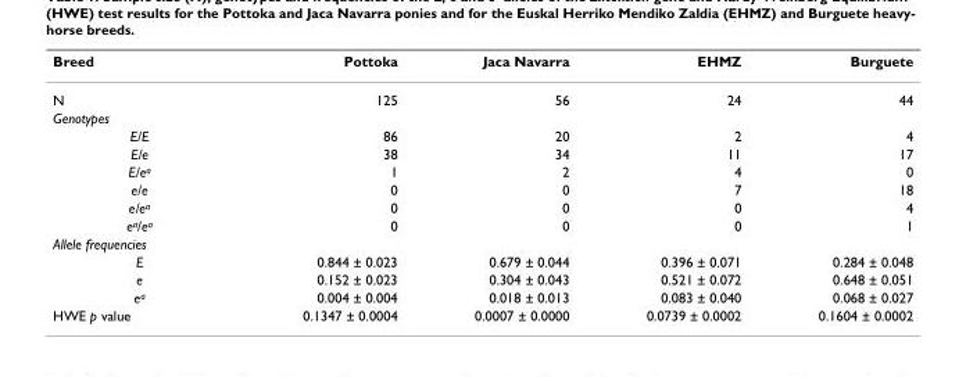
<table><thead><tr><td>Breed</td><td>Pottoka</td><td>Jaca Navarra</td><td>EHMZ</td><td>Burguete</td></tr></thead><tbody><tr><td>N</td><td>125</td><td>56</td><td>24</td><td>44</td></tr><tr><td colspan="5">Genotypes</td></tr><tr><td>E/E</td><td>86</td><td>20</td><td>2</td><td>4</td></tr><tr><td>E/e</td><td>38</td><td>34</td><td>11</td><td>17</td></tr><tr><td>E/e<sup>a</sup></td><td>1</td><td>2</td><td>4</td><td>0</td></tr><tr><td>e/e</td><td>0</td><td>0</td><td>7</td><td>18</td></tr><tr><td>e/e<sup>a</sup></td><td>0</td><td>0</td><td>0</td><td>4</td></tr><tr><td>e<sup>a</sup>/e<sup>a</sup></td><td>0</td><td>0</td><td>0</td><td>1</td></tr><tr><td colspan="5">Allele frequencies</td></tr><tr><td>E</td><td>0.844 ± 0.023</td><td>0.679 ± 0.044</td><td>0.396 ± 0.071</td><td>0.284 ± 0.048</td></tr><tr><td>e</td><td>0.152 ± 0.023</td><td>0.304 ± 0.043</td><td>0.521 ± 0.072</td><td>0.648 ± 0.051</td></tr><tr><td>e<sup>a</sup></td><td>0.004 ± 0.004</td><td>0.018 ± 0.013</td><td>0.083 ± 0.040</td><td>0.068 ± 0.027</td></tr><tr><td>HWE p value</td><td>0.1347 ± 0.0004</td><td>0.0007 ± 0.0000</td><td>0.0739 ± 0.0002</td><td>0.1604 ± 0.0002</td></tr></tbody></table>